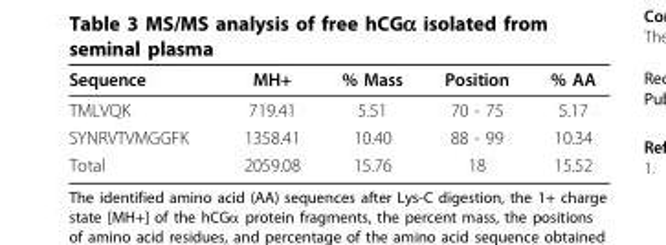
<table><thead><tr><td>Sequence</td><td>MH+</td><td>% Mass</td><td>Position</td><td>% AA</td></tr></thead><tbody><tr><td>TMLVQK</td><td>719.41</td><td>5.51</td><td>70 - 75</td><td>5.17</td></tr><tr><td>SYNRVTVMGGFK</td><td>1358.41</td><td>10.40</td><td>88 - 99</td><td>10.34</td></tr><tr><td>Total</td><td>2059.08</td><td>15.76</td><td>18</td><td>15.52</td></tr></tbody></table>